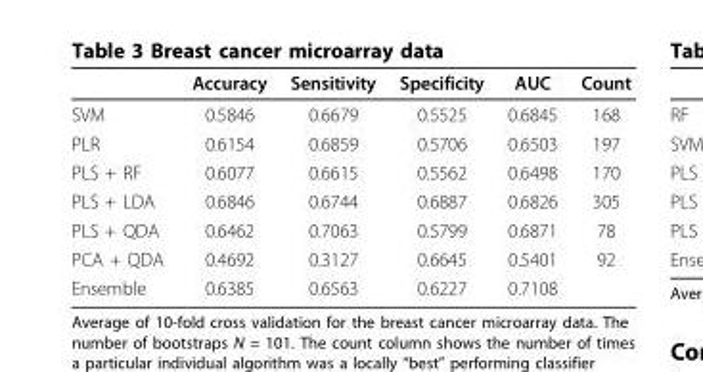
<table><thead><tr><td></td><td>Accuracy</td><td>Sensitivity</td><td>Specificity</td><td>AUC</td><td>Count</td></tr></thead><tbody><tr><td>SVM</td><td>0.5846</td><td>0.6679</td><td>0.5525</td><td>0.6845</td><td>168</td></tr><tr><td>PLR</td><td>0.6154</td><td>0.6859</td><td>0.5706</td><td>0.6503</td><td>197</td></tr><tr><td>PLS + RF</td><td>0.6077</td><td>0.6615</td><td>0.5562</td><td>0.6498</td><td>170</td></tr><tr><td>PLS + LDA</td><td>0.6846</td><td>0.6744</td><td>0.6887</td><td>0.6826</td><td>305</td></tr><tr><td>PLS + QDA</td><td>0.6462</td><td>0.7063</td><td>0.5799</td><td>0.6871</td><td>78</td></tr><tr><td>PCA + QDA</td><td>0.4692</td><td>0.3127</td><td>0.6645</td><td>0.5401</td><td>92</td></tr><tr><td>Ensemble</td><td>0.6385</td><td>0.6563</td><td>0.6227</td><td>0.7108</td><td></td></tr></tbody></table>